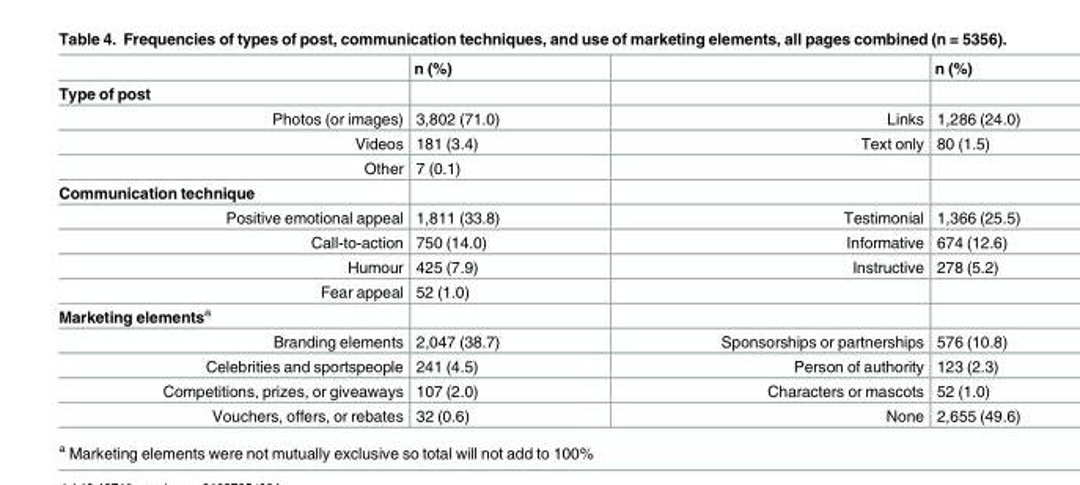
<table><thead><tr><td></td><td>n (%)</td><td></td><td>n (%)</td></tr></thead><tbody><tr><td colspan="4">Type of post</td></tr><tr><td>Photos (or images)</td><td>3,802 (71.0)</td><td>Links</td><td>1,286 (24.0)</td></tr><tr><td>Videos</td><td>181 (3.4)</td><td>Text only</td><td>80 (1.5)</td></tr><tr><td>Other</td><td>7 (0.1)</td><td></td><td></td></tr><tr><td colspan="4">Communication technique</td></tr><tr><td>Positive emotional appeal</td><td>1,811 (33.8)</td><td>Testimonial</td><td>1,366 (25.5)</td></tr><tr><td>Call-to-action</td><td>750 (14.0)</td><td>Informative</td><td>674 (12.6)</td></tr><tr><td>Humour</td><td>425 (7.9)</td><td>Instructive</td><td>278 (5.2)</td></tr><tr><td>Fear appeal</td><td>52 (1.0)</td><td></td><td></td></tr><tr><td colspan="4">Marketing elements<sup>a</sup></td></tr><tr><td>Branding elements</td><td>2,047 (38.7)</td><td>Sponsorships or partnerships</td><td>576 (10.8)</td></tr><tr><td>Celebrities and sportspeople</td><td>241 (4.5)</td><td>Person of authority</td><td>123 (2.3)</td></tr><tr><td>Competitions, prizes, or giveaways</td><td>107 (2.0)</td><td>Characters or mascots</td><td>52 (1.0)</td></tr><tr><td>Vouchers, offers, or rebates</td><td>32 (0.6)</td><td>None</td><td>2,655 (49.6)</td></tr></tbody></table>